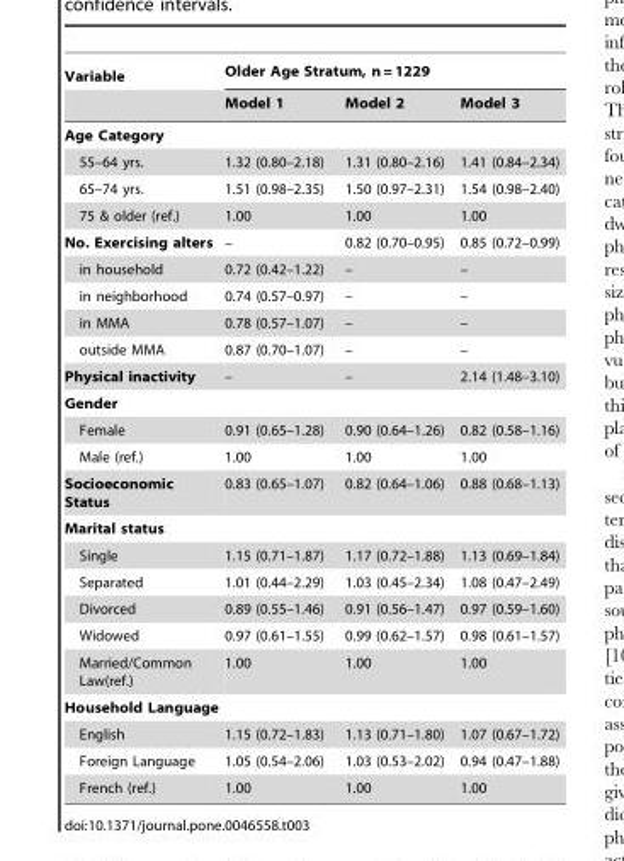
<table><thead><tr><td rowspan="2">Variable</td><td colspan="3">Older Age Stratum, n = 1229</td></tr><tr><td>Model 1</td><td>Model 2</td><td>Model 3</td></tr></thead><tbody><tr><td colspan="4">Age Category</td></tr><tr><td>55–64 yrs.</td><td>1.32 (0.80–2.18)</td><td>1.31 (0.80–2.16)</td><td>1.41 (0.84–2.34)</td></tr><tr><td>65–74 yrs.</td><td>1.51 (0.98–2.35)</td><td>1.50 (0.97–2.31)</td><td>1.54 (0.98–2.40)</td></tr><tr><td>75 &amp; older (ref.)</td><td>1.00</td><td>1.00</td><td>1.00</td></tr><tr><td>No. Exercising alters</td><td>–</td><td>0.82 (0.70–0.95)</td><td>0.85 (0.72–0.99)</td></tr><tr><td>in household</td><td>0.72 (0.42–1.22)</td><td>–</td><td>–</td></tr><tr><td>in neighborhood</td><td>0.74 (0.57–0.97)</td><td>–</td><td>–</td></tr><tr><td>in MMA</td><td>0.78 (0.57–1.07)</td><td>–</td><td>–</td></tr><tr><td>outside MMA</td><td>0.87 (0.70–1.07)</td><td>–</td><td>–</td></tr><tr><td>Physical inactivity</td><td>–</td><td>–</td><td>2.14 (1.48–3.10)</td></tr><tr><td colspan="4">Gender</td></tr><tr><td>Female</td><td>0.91 (0.65–1.28)</td><td>0.90 (0.64–1.26)</td><td>0.82 (0.58–1.16)</td></tr><tr><td>Male (ref.)</td><td>1.00</td><td>1.00</td><td>1.00</td></tr><tr><td>Socioeconomic Status</td><td>0.83 (0.65–1.07)</td><td>0.82 (0.64–1.06)</td><td>0.88 (0.68–1.13)</td></tr><tr><td colspan="4">Marital status</td></tr><tr><td>Single</td><td>1.15 (0.71–1.87)</td><td>1.17 (0.72–1.88)</td><td>1.13 (0.69–1.84)</td></tr><tr><td>Separated</td><td>1.01 (0.44–2.29)</td><td>1.03 (0.45–2.34)</td><td>1.08 (0.47–2.49)</td></tr><tr><td>Divorced</td><td>0.89 (0.55–1.46)</td><td>0.91 (0.56–1.47)</td><td>0.97 (0.59–1.60)</td></tr><tr><td>Widowed</td><td>0.97 (0.61–1.55)</td><td>0.99 (0.62–1.57)</td><td>0.98 (0.61–1.57)</td></tr><tr><td>Married/Common Law(ref.)</td><td>1.00</td><td>1.00</td><td>1.00</td></tr><tr><td colspan="4">Household Language</td></tr><tr><td>English</td><td>1.15 (0.72–1.83)</td><td>1.13 (0.71–1.80)</td><td>1.07 (0.67–1.72)</td></tr><tr><td>Foreign Language</td><td>1.05 (0.54–2.06)</td><td>1.03 (0.53–2.02)</td><td>0.94 (0.47–1.88)</td></tr><tr><td>French (ref.)</td><td>1.00</td><td>1.00</td><td>1.00</td></tr></tbody></table>